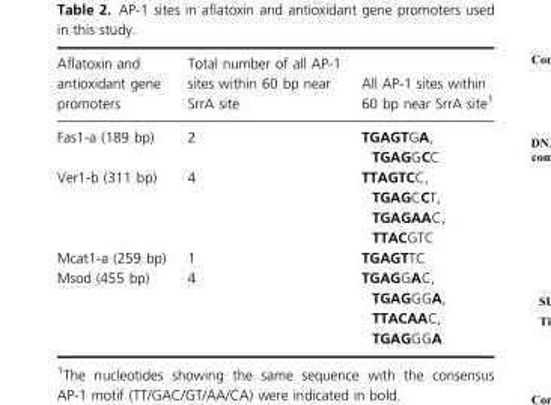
<table><thead><tr><td>Aflatoxin and antioxidant gene promoters</td><td>Total number of all AP-1 sites within 60 bp near SrrA site</td><td>All AP-1 sites within 60 bp near SrrA site<sup>1</sup></td></tr></thead><tbody><tr><td>Fas1-a (189 bp)</td><td>2</td><td>TGAGTGA, TGAGGCC</td></tr><tr><td>Ver1-b (311 bp)</td><td>4</td><td>TTAGTCC, TGAGCCT, TGAGAAC, TTACGTC</td></tr><tr><td>Mcat1-a (259 bp)</td><td>1</td><td>TGAGTTC</td></tr><tr><td>Msod (455 bp)</td><td>4</td><td>TGAGGAC, TGAGGGA, TTACAAC, TGAGGGA</td></tr></tbody></table>